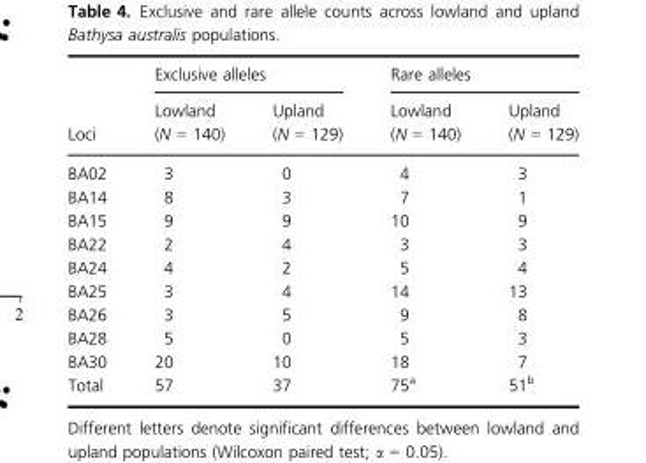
<table><thead><tr><td rowspan="2">Loci</td><td colspan="2">Exclusive alleles</td><td colspan="2">Rare alleles</td></tr><tr><td>Lowland (N = 140)</td><td>Upland (N = 129)</td><td>Lowland (N = 140)</td><td>Upland (N = 129)</td></tr></thead><tbody><tr><td>BA02</td><td>3</td><td>0</td><td>4</td><td>3</td></tr><tr><td>BA14</td><td>8</td><td>3</td><td>7</td><td>1</td></tr><tr><td>BA15</td><td>9</td><td>9</td><td>10</td><td>9</td></tr><tr><td>BA22</td><td>2</td><td>4</td><td>3</td><td>3</td></tr><tr><td>BA24</td><td>4</td><td>2</td><td>5</td><td>4</td></tr><tr><td>BA25</td><td>3</td><td>4</td><td>14</td><td>13</td></tr><tr><td>BA26</td><td>3</td><td>5</td><td>9</td><td>8</td></tr><tr><td>BA28</td><td>5</td><td>0</td><td>5</td><td>3</td></tr><tr><td>BA30</td><td>20</td><td>10</td><td>18</td><td>7</td></tr><tr><td>Total</td><td>57</td><td>37</td><td>75<sup>a</sup></td><td>51<sup>b</sup></td></tr></tbody></table>